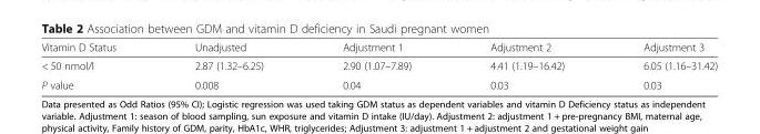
<table><thead><tr><td>Vitamin D Status</td><td>Unadjusted</td><td>Adjustment 1</td><td>Adjustment 2</td><td>Adjustment 3</td></tr></thead><tbody><tr><td>&lt; 50 nmol/l</td><td>2.87 (1.32–6.25)</td><td>2.90 (1.07–7.89)</td><td>4.41 (1.19–16.42)</td><td>6.05 (1.16–31.42)</td></tr><tr><td>P value</td><td>0.008</td><td>0.04</td><td>0.03</td><td>0.03</td></tr></tbody></table>